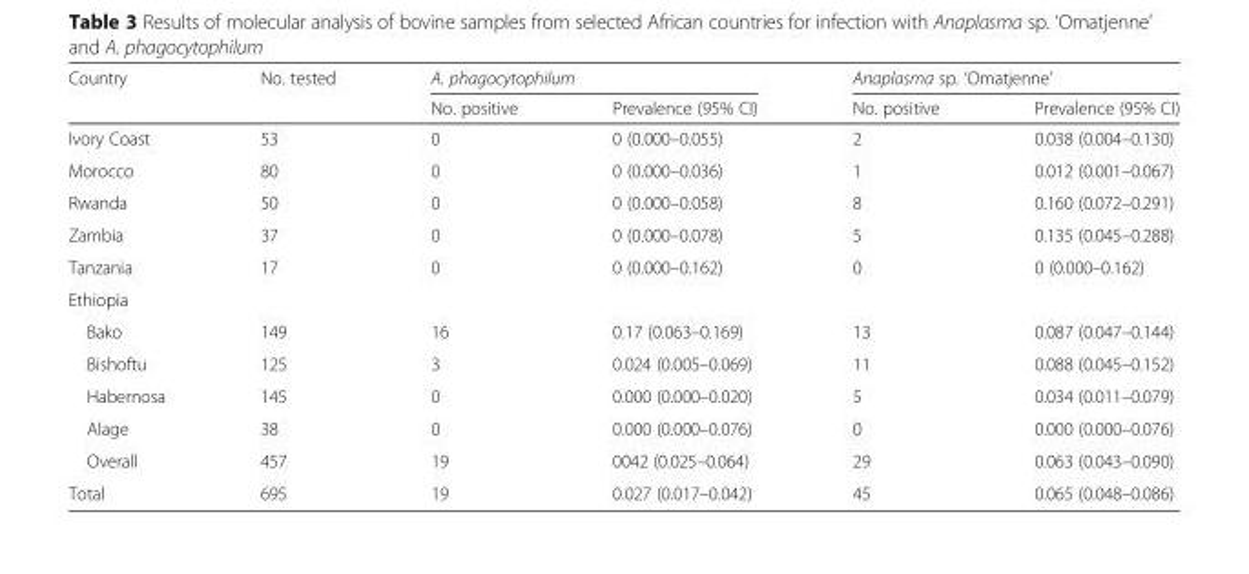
<table><thead><tr><td rowspan="2">Country</td><td rowspan="2">No. tested</td><td colspan="2">A. phagocytophilum</td><td colspan="2">Anaplasma sp. ‘Omatjenne’</td></tr><tr><td>No. positive</td><td>Prevalence (95% CI)</td><td>No. positive</td><td>Prevalence (95% CI)</td></tr></thead><tbody><tr><td>Ivory Coast</td><td>53</td><td>0</td><td>0 (0.000–0.055)</td><td>2</td><td>0.038 (0.004–0.130)</td></tr><tr><td>Morocco</td><td>80</td><td>0</td><td>0 (0.000–0.036)</td><td>1</td><td>0.012 (0.001–0.067)</td></tr><tr><td>Rwanda</td><td>50</td><td>0</td><td>0 (0.000–0.058)</td><td>8</td><td>0.160 (0.072–0.291)</td></tr><tr><td>Zambia</td><td>37</td><td>0</td><td>0 (0.000–0.078)</td><td>5</td><td>0.135 (0.045–0.288)</td></tr><tr><td>Tanzania</td><td>17</td><td>0</td><td>0 (0.000–0.162)</td><td>0</td><td>0 (0.000–0.162)</td></tr><tr><td colspan="6">Ethiopia</td></tr><tr><td>Bako</td><td>149</td><td>16</td><td>0.17 (0.063–0.169)</td><td>13</td><td>0.087 (0.047–0.144)</td></tr><tr><td>Bishoftu</td><td>125</td><td>3</td><td>0.024 (0.005–0.069)</td><td>11</td><td>0.088 (0.045–0.152)</td></tr><tr><td>Habernosa</td><td>145</td><td>0</td><td>0.000 (0.000–0.020)</td><td>5</td><td>0.034 (0.011–0.079)</td></tr><tr><td>Alage</td><td>38</td><td>0</td><td>0.000 (0.000–0.076)</td><td>0</td><td>0.000 (0.000–0.076)</td></tr><tr><td>Overall</td><td>457</td><td>19</td><td>0042 (0.025–0.064)</td><td>29</td><td>0.063 (0.043–0.090)</td></tr><tr><td>Total</td><td>695</td><td>19</td><td>0.027 (0.017–0.042)</td><td>45</td><td>0.065 (0.048–0.086)</td></tr></tbody></table>